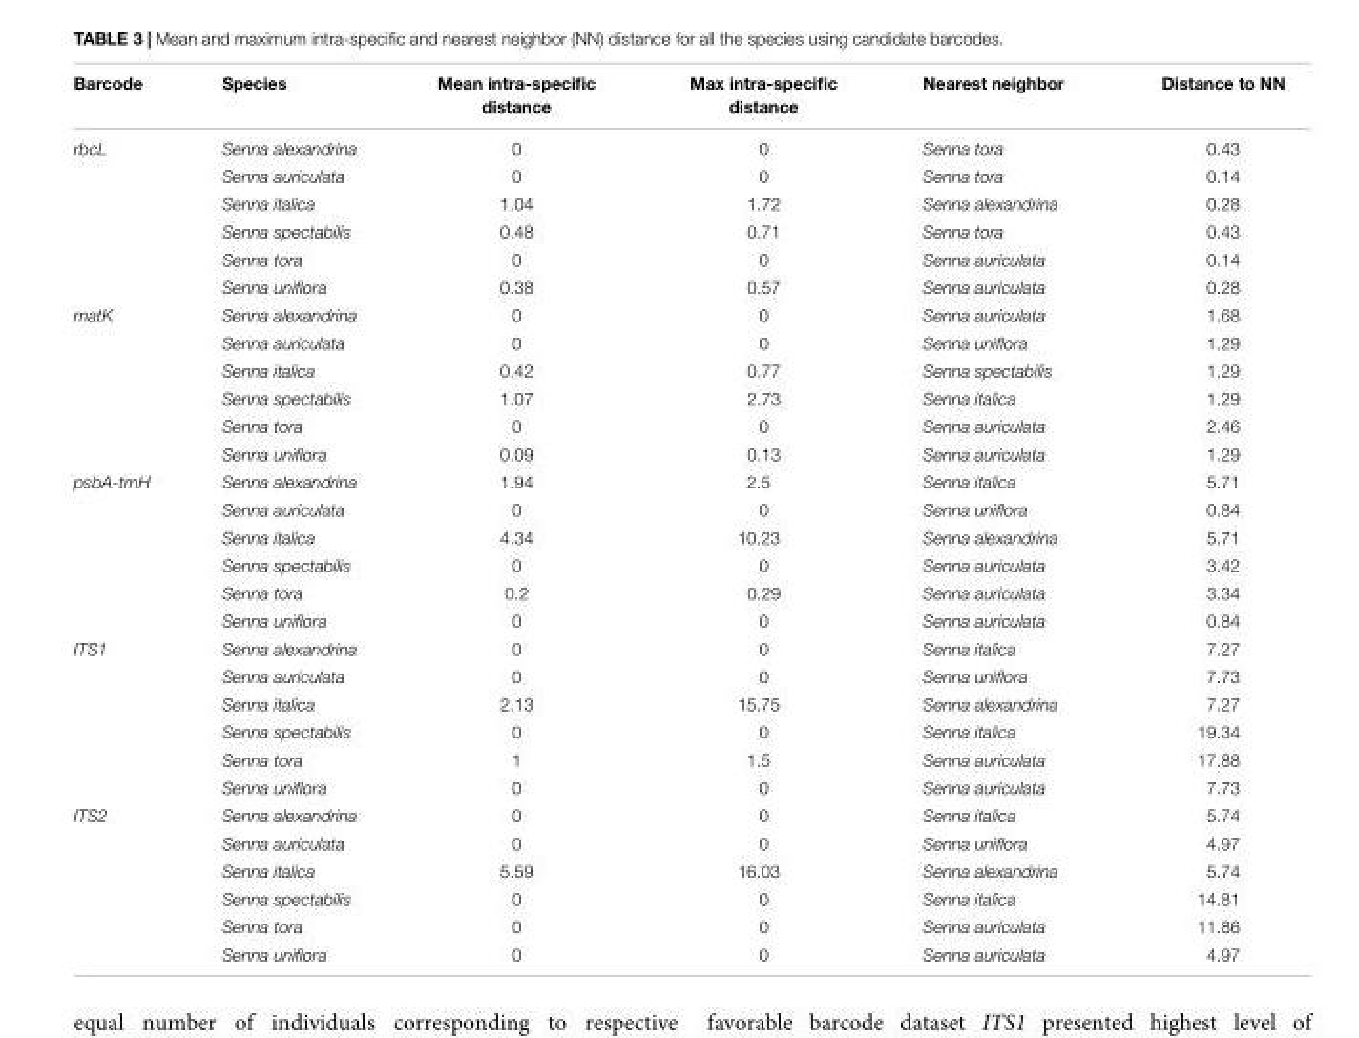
<table><thead><tr><td>Barcode</td><td>Species</td><td>Mean intra-specific distance</td><td>Max intra-specific distance</td><td>Nearest neighbor</td><td>Distance to NN</td></tr></thead><tbody><tr><td rowspan="6">rbcL</td><td>Senna alexandrina</td><td>0</td><td>0</td><td>Senna tora</td><td>0.43</td></tr><tr><td>Senna auriculata</td><td>0</td><td>0</td><td>Senna tora</td><td>0.14</td></tr><tr><td>Senna italica</td><td>1.04</td><td>1.72</td><td>Senna alexandrina</td><td>0.28</td></tr><tr><td>Senna spectabilis</td><td>0.48</td><td>0.71</td><td>Senna tora</td><td>0.43</td></tr><tr><td>Senna tora</td><td>0</td><td>0</td><td>Senna auriculata</td><td>0.14</td></tr><tr><td>Senna uniflora</td><td>0.38</td><td>0.57</td><td>Senna auriculata</td><td>0.28</td></tr><tr><td rowspan="6">matK</td><td>Senna alexandrina</td><td>0</td><td>0</td><td>Senna auriculata</td><td>1.68</td></tr><tr><td>Senna auriculata</td><td>0</td><td>0</td><td>Senna uniflora</td><td>1.29</td></tr><tr><td>Senna italica</td><td>0.42</td><td>0.77</td><td>Senna spectabilis</td><td>1.29</td></tr><tr><td>Senna spectabilis</td><td>1.07</td><td>2.73</td><td>Senna italica</td><td>1.29</td></tr><tr><td>Senna tora</td><td>0</td><td>0</td><td>Senna auriculata</td><td>2.46</td></tr><tr><td>Senna uniflora</td><td>0.09</td><td>0.13</td><td>Senna auriculata</td><td>1.29</td></tr><tr><td rowspan="6">psbA-trnH</td><td>Senna alexandrina</td><td>1.94</td><td>2.5</td><td>Senna italica</td><td>5.71</td></tr><tr><td>Senna auriculata</td><td>0</td><td>0</td><td>Senna uniflora</td><td>0.84</td></tr><tr><td>Senna italica</td><td>4.34</td><td>10.23</td><td>Senna alexandrina</td><td>5.71</td></tr><tr><td>Senna spectabilis</td><td>0</td><td>0</td><td>Senna auriculata</td><td>3.42</td></tr><tr><td>Senna tora</td><td>0.2</td><td>0.29</td><td>Senna auriculata</td><td>3.34</td></tr><tr><td>Senna uniflora</td><td>0</td><td>0</td><td>Senna auriculata</td><td>0.84</td></tr><tr><td rowspan="6">ITS1</td><td>Senna alexandrina</td><td>0</td><td>0</td><td>Senna italica</td><td>7.27</td></tr><tr><td>Senna auriculata</td><td>0</td><td>0</td><td>Senna uniflora</td><td>7.73</td></tr><tr><td>Senna italica</td><td>2.13</td><td>15.75</td><td>Senna alexandrina</td><td>7.27</td></tr><tr><td>Senna spectabilis</td><td>0</td><td>0</td><td>Senna italica</td><td>19.34</td></tr><tr><td>Senna tora</td><td>1</td><td>1.5</td><td>Senna auriculata</td><td>17.88</td></tr><tr><td>Senna uniflora</td><td>0</td><td>0</td><td>Senna auriculata</td><td>7.73</td></tr><tr><td rowspan="6">ITS2</td><td>Senna alexandrina</td><td>0</td><td>0</td><td>Senna italica</td><td>5.74</td></tr><tr><td>Senna auriculata</td><td>0</td><td>0</td><td>Senna uniflora</td><td>4.97</td></tr><tr><td>Senna italica</td><td>5.59</td><td>16.03</td><td>Senna alexandrina</td><td>5.74</td></tr><tr><td>Senna spectabilis</td><td>0</td><td>0</td><td>Senna italica</td><td>14.81</td></tr><tr><td>Senna tora</td><td>0</td><td>0</td><td>Senna auriculata</td><td>11.86</td></tr><tr><td>Senna uniflora</td><td>0</td><td>0</td><td>Senna auriculata</td><td>4.97</td></tr></tbody></table>